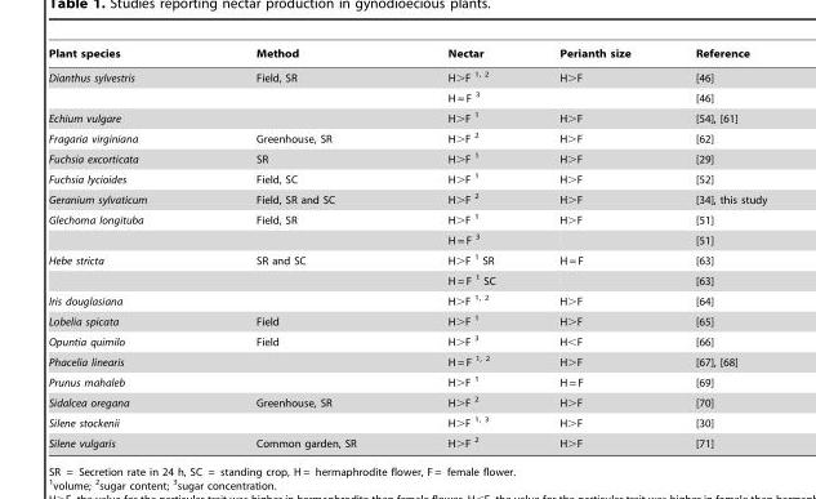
<table><thead><tr><td>Plant species</td><td>Method</td><td>Nectar</td><td>Perianth size</td><td>Reference</td></tr></thead><tbody><tr><td rowspan="2">Dianthus sylvestris</td><td>Field, SR</td><td>H&gt;F 1, 2</td><td>H&gt;F</td><td>[46]</td></tr><tr><td></td><td>H = F <sup>3</sup></td><td></td><td>[46]</td></tr><tr><td>Echium vulgare</td><td></td><td>H&gt;F 1</td><td>H&gt;F</td><td>[54], [61]</td></tr><tr><td>Fragaria virginiana</td><td>Greenhouse, SR</td><td>H&gt;F <sup>2</sup></td><td>H&gt;F</td><td>[62]</td></tr><tr><td>Fuchsia excorticata</td><td>SR</td><td>H&gt;F 1</td><td>H&gt;F</td><td>[29]</td></tr><tr><td>Fuchsia lycioides</td><td>Field, SC</td><td>H&gt;F 1</td><td>H&gt;F</td><td>[52]</td></tr><tr><td>Geranium sylvaticum</td><td>Field, SR and SC</td><td>H&gt;F <sup>2</sup></td><td>H&gt;F</td><td>[34], this study</td></tr><tr><td rowspan="2">Glechoma longituba</td><td>Field, SR</td><td>H&gt;F 1</td><td>H&gt;F</td><td>[51]</td></tr><tr><td></td><td>H = F <sup>3</sup></td><td></td><td>[51]</td></tr><tr><td rowspan="2">Hebe stricta</td><td>SR and SC</td><td>H&gt;F 1 SR</td><td>H = F</td><td>[63]</td></tr><tr><td></td><td>H = F 1 SC</td><td></td><td>[63]</td></tr><tr><td>Iris douglasiana</td><td></td><td>H&gt;F 1, <sup>2</sup></td><td>H&gt;F</td><td>[64]</td></tr><tr><td>Lobelia spicata</td><td>Field</td><td>H&gt;F 1</td><td>H&gt;F</td><td>[65]</td></tr><tr><td>Opuntia quimilo</td><td>Field</td><td>H&gt;F <sup>3</sup></td><td>H&lt;F</td><td>[66]</td></tr><tr><td>Phacelia linearis</td><td></td><td>H = F 1, 2</td><td>H&gt;F</td><td>[67], [68]</td></tr><tr><td>Prunus mahaleb</td><td></td><td>H&gt;F 1</td><td>H = F</td><td>[69]</td></tr><tr><td>Sidalcea oregana</td><td>Greenhouse, SR</td><td>H&gt;F <sup>2</sup></td><td>H&gt;F</td><td>[70]</td></tr><tr><td>Silene stockenii</td><td></td><td>H&gt;F 1, 3</td><td>H&gt;F</td><td>[30]</td></tr><tr><td>Silene vulgaris</td><td>Common garden, SR</td><td>H&gt;F <sup>2</sup></td><td>H&gt;F</td><td>[71]</td></tr></tbody></table>